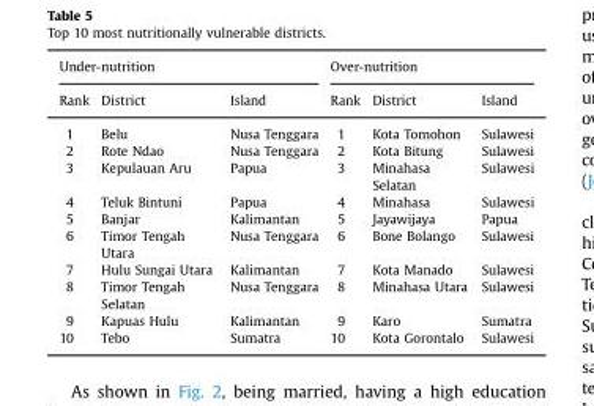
<table><thead><tr><td colspan="3">Under-nutrition</td><td colspan="3">Over-nutrition</td></tr><tr><td>Rank</td><td>District</td><td>Island</td><td>Rank</td><td>District</td><td>Island</td></tr></thead><tbody><tr><td>1</td><td>Belu</td><td>Nusa Tenggara</td><td>1</td><td>Kota Tomohon</td><td>Sulawesi</td></tr><tr><td>2</td><td>Rote Ndao</td><td>Nusa Tenggara</td><td>2</td><td>Kota Bitung</td><td>Sulawesi</td></tr><tr><td>3</td><td>Kepulauan Aru</td><td>Papua</td><td>3</td><td>Minahasa Selatan</td><td>Sulawesi</td></tr><tr><td>4</td><td>Teluk Bintuni</td><td>Papua</td><td>4</td><td>Minahasa</td><td>Sulawesi</td></tr><tr><td>5</td><td>Banjar</td><td>Kalimantan</td><td>5</td><td>Jayawijaya</td><td>Papua</td></tr><tr><td>6</td><td>Timor Tengah Utara</td><td>Nusa Tenggara</td><td>6</td><td>Bone Bolango</td><td>Sulawesi</td></tr><tr><td>7</td><td>Hulu Sungai Utara</td><td>Kalimantan</td><td>7</td><td>Kota Manado</td><td>Sulawesi</td></tr><tr><td>8</td><td>Timor Tengah Selatan</td><td>Nusa Tenggara</td><td>8</td><td>Minahasa Utara</td><td>Sulawesi</td></tr><tr><td>9</td><td>Kapuas Hulu</td><td>Kalimantan</td><td>9</td><td>Karo</td><td>Sumatra</td></tr><tr><td>10</td><td>Tebo</td><td>Sumatra</td><td>10</td><td>Kota Gorontalo</td><td>Sulawesi</td></tr></tbody></table>